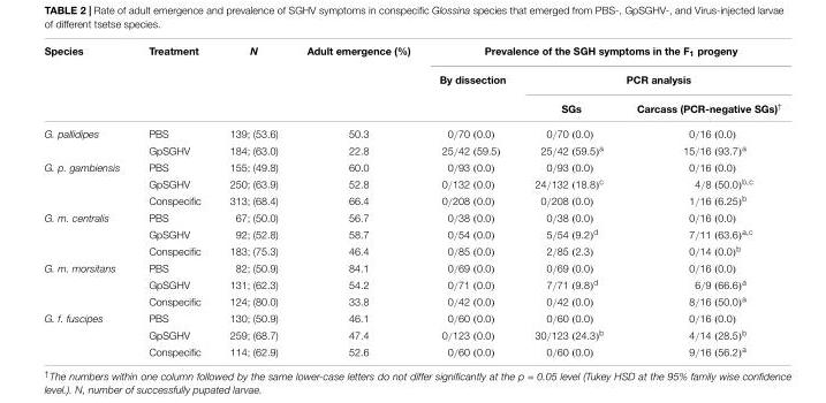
<table><thead><tr><td rowspan="3">Species</td><td rowspan="3">Treatment</td><td rowspan="3">N</td><td rowspan="3">Adult emergence (%)</td><td colspan="3">Prevalence of the SGH symptoms in the F<sub>1</sub> progeny</td></tr><tr><td rowspan="2">By dissection</td><td colspan="2">PCR analysis</td></tr><tr><td>SGs</td><td>Carcass (PCR-negative SGs)<sup>†</sup></td></tr></thead><tbody><tr><td rowspan="2">G. pallidipes</td><td>PBS</td><td>139; (53.6)</td><td>50.3</td><td>0/70 (0.0)</td><td>0/70 (0.0)</td><td>0/16 (0.0)</td></tr><tr><td>GpSGHV</td><td>184; (63.0)</td><td>22.8</td><td>25/42 (59.5)</td><td>25/42 (59.5)<sup>a</sup></td><td>15/16 (93.7)<sup>a</sup></td></tr><tr><td rowspan="3">G. p. gambiensis</td><td>PBS</td><td>155; (49.8)</td><td>60.0</td><td>0/93 (0.0)</td><td>0/93 (0.0)</td><td>0/16 (0.0)</td></tr><tr><td>GpSGHV</td><td>250; (63.9)</td><td>52.8</td><td>0/132 (0.0)</td><td>24/132 (18.8)<sup>c</sup></td><td>4/8 (50.0)<sup>b,c</sup></td></tr><tr><td>Conspecific</td><td>313; (68.4)</td><td>66.4</td><td>0/208 (0.0)</td><td>0/208 (0.0)</td><td>1/16 (6.25)<sup>b</sup></td></tr><tr><td rowspan="3">G. m. centralis</td><td>PBS</td><td>67; (50.0)</td><td>56.7</td><td>0/38 (0.0)</td><td>0/38 (0.0)</td><td>0/16 (0.0)</td></tr><tr><td>GpSGHV</td><td>92; (52.8)</td><td>58.7</td><td>0/54 (0.0)</td><td>5/54 (9.2)<sup>d</sup></td><td>7/11 (63.6)<sup>a,c</sup></td></tr><tr><td>Conspecific</td><td>183; (75.3)</td><td>46.4</td><td>0/85 (0.0)</td><td>2/85 (2.3)</td><td>0/14 (0.0)<sup>b</sup></td></tr><tr><td rowspan="3">G. m. morsitans</td><td>PBS</td><td>82; (50.9)</td><td>84.1</td><td>0/69 (0.0)</td><td>0/69 (0.0)</td><td>0/16 (0.0)</td></tr><tr><td>GpSGHV</td><td>131; (62.3)</td><td>54.2</td><td>0/71 (0.0)</td><td>7/71 (9.8)<sup>d</sup></td><td>6/9 (66.6)<sup>a</sup></td></tr><tr><td>Conspecific</td><td>124; (80.0)</td><td>33.8</td><td>0/42 (0.0)</td><td>0/42 (0.0)</td><td>8/16 (50.0)<sup>a</sup></td></tr><tr><td rowspan="3">G. f. fuscipes</td><td>PBS</td><td>130; (50.9)</td><td>46.1</td><td>0/60 (0.0)</td><td>0/60 (0.0)</td><td>0/16 (0.0)</td></tr><tr><td>GpSGHV</td><td>259; (68.7)</td><td>47.4</td><td>0/123 (0.0)</td><td>30/123 (24.3)<sup>b</sup></td><td>4/14 (28.5)<sup>b</sup></td></tr><tr><td>Conspecific</td><td>114; (62.9)</td><td>52.6</td><td>0/60 (0.0)</td><td>0/60 (0.0)</td><td>9/16 (56.2)<sup>a</sup></td></tr></tbody></table>